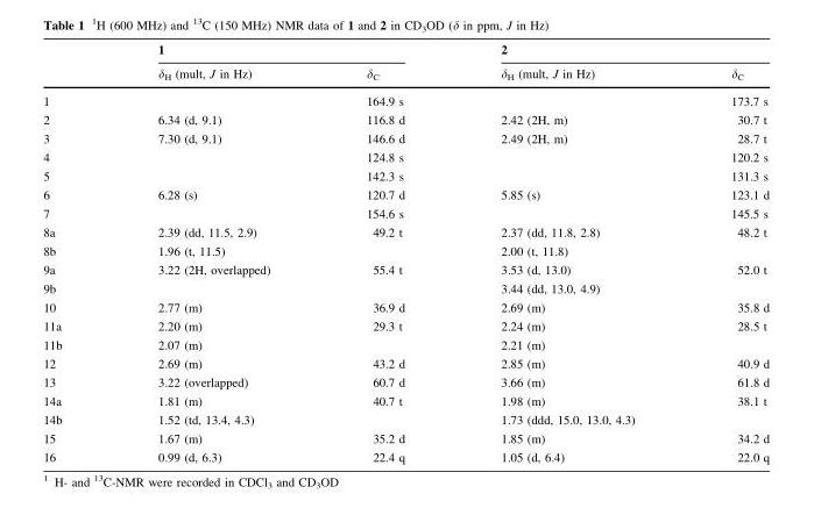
<table><thead><tr><td rowspan="2"></td><td colspan="2">1</td><td colspan="2">2</td></tr><tr><td>δ<sub>H</sub> (mult, J in Hz)</td><td>δ<sub>C</sub></td><td>δ<sub>H</sub> (mult, J in Hz)</td><td>δ<sub>C</sub></td></tr></thead><tbody><tr><td>1</td><td></td><td>164.9 s</td><td></td><td>173.7 s</td></tr><tr><td>2</td><td>6.34 (d, 9.1)</td><td>116.8 d</td><td>2.42 (2H, m)</td><td>30.7 t</td></tr><tr><td>3</td><td>7.30 (d, 9.1)</td><td>146.6 d</td><td>2.49 (2H, m)</td><td>28.7 t</td></tr><tr><td>4</td><td></td><td>124.8 s</td><td></td><td>120.2 s</td></tr><tr><td>5</td><td></td><td>142.3 s</td><td></td><td>131.3 s</td></tr><tr><td>6</td><td>6.28 (s)</td><td>120.7 d</td><td>5.85 (s)</td><td>123.1 d</td></tr><tr><td>7</td><td></td><td>154.6 s</td><td></td><td>145.5 s</td></tr><tr><td>8a</td><td>2.39 (dd, 11.5, 2.9)</td><td>49.2 t</td><td>2.37 (dd, 11.8, 2.8)</td><td>48.2 t</td></tr><tr><td>8b</td><td>1.96 (t, 11.5)</td><td></td><td>2.00 (t, 11.8)</td><td></td></tr><tr><td>9a</td><td>3.22 (2H, overlapped)</td><td>55.4 t</td><td>3.53 (d, 13.0)</td><td>52.0 t</td></tr><tr><td>9b</td><td></td><td></td><td>3.44 (dd, 13.0, 4.9)</td><td></td></tr><tr><td>10</td><td>2.77 (m)</td><td>36.9 d</td><td>2.69 (m)</td><td>35.8 d</td></tr><tr><td>11a</td><td>2.20 (m)</td><td>29.3 t</td><td>2.24 (m)</td><td>28.5 t</td></tr><tr><td>11b</td><td>2.07 (m)</td><td></td><td>2.21 (m)</td><td></td></tr><tr><td>12</td><td>2.69 (m)</td><td>43.2 d</td><td>2.85 (m)</td><td>40.9 d</td></tr><tr><td>13</td><td>3.22 (overlapped)</td><td>60.7 d</td><td>3.66 (m)</td><td>61.8 d</td></tr><tr><td>14a</td><td>1.81 (m)</td><td>40.7 t</td><td>1.98 (m)</td><td>38.1 t</td></tr><tr><td>14b</td><td>1.52 (td, 13.4, 4.3)</td><td></td><td>1.73 (ddd, 15.0, 13.0, 4.3)</td><td></td></tr><tr><td>15</td><td>1.67 (m)</td><td>35.2 d</td><td>1.85 (m)</td><td>34.2 d</td></tr><tr><td>16</td><td>0.99 (d, 6.3)</td><td>22.4 q</td><td>1.05 (d, 6.4)</td><td>22.0 q</td></tr></tbody></table>